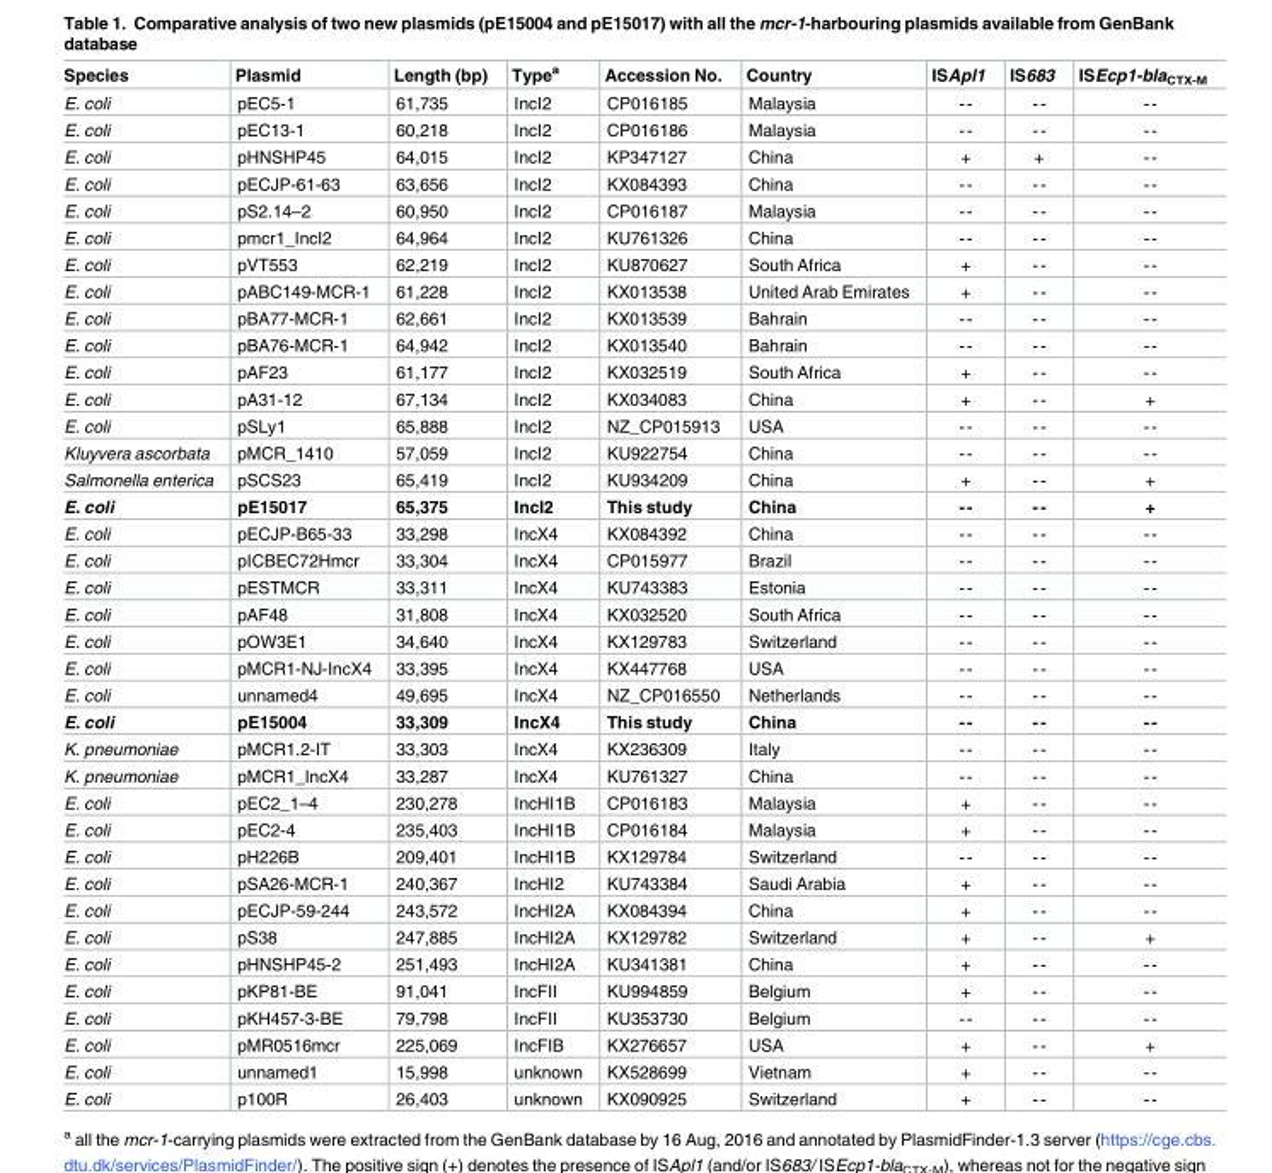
<table><thead><tr><td>Species</td><td>Plasmid</td><td>Length (bp)</td><td>Type<sup>a</sup></td><td>Accession No.</td><td>Country</td><td>ISApl1</td><td>IS683</td><td>ISEcp1-bla<sub>CTX-M</sub></td></tr></thead><tbody><tr><td>E. coli</td><td>pEC5-1</td><td>61,735</td><td>IncI2</td><td>CP016185</td><td>Malaysia</td><td>--</td><td>--</td><td>--</td></tr><tr><td>E. coli</td><td>pEC13-1</td><td>60,218</td><td>IncI2</td><td>CP016186</td><td>Malaysia</td><td>--</td><td>--</td><td>--</td></tr><tr><td>E. coli</td><td>pHNSHP45</td><td>64,015</td><td>IncI2</td><td>KP347127</td><td>China</td><td>+</td><td>+</td><td>--</td></tr><tr><td>E. coli</td><td>pECJP-61-63</td><td>63,656</td><td>IncI2</td><td>KX084393</td><td>China</td><td>--</td><td>--</td><td>--</td></tr><tr><td>E. coli</td><td>pS2.14–2</td><td>60,950</td><td>IncI2</td><td>CP016187</td><td>Malaysia</td><td>--</td><td>--</td><td>--</td></tr><tr><td>E. coli</td><td>pmcr1_IncI2</td><td>64,964</td><td>IncI2</td><td>KU761326</td><td>China</td><td>--</td><td>--</td><td>--</td></tr><tr><td>E. coli</td><td>pVT553</td><td>62,219</td><td>IncI2</td><td>KU870627</td><td>South Africa</td><td>+</td><td>--</td><td>--</td></tr><tr><td>E. coli</td><td>pABC149-MCR-1</td><td>61,228</td><td>IncI2</td><td>KX013538</td><td>United Arab Emirates</td><td>+</td><td>--</td><td>--</td></tr><tr><td>E. coli</td><td>pBA77-MCR-1</td><td>62,661</td><td>IncI2</td><td>KX013539</td><td>Bahrain</td><td>--</td><td>--</td><td>--</td></tr><tr><td>E. coli</td><td>pBA76-MCR-1</td><td>64,942</td><td>IncI2</td><td>KX013540</td><td>Bahrain</td><td>--</td><td>--</td><td>--</td></tr><tr><td>E. coli</td><td>pAF23</td><td>61,177</td><td>IncI2</td><td>KX032519</td><td>South Africa</td><td>+</td><td>--</td><td>--</td></tr><tr><td>E. coli</td><td>pA31-12</td><td>67,134</td><td>IncI2</td><td>KX034083</td><td>China</td><td>+</td><td>--</td><td>+</td></tr><tr><td>E. coli</td><td>pSLy1</td><td>65,888</td><td>IncI2</td><td>NZ_CP015913</td><td>USA</td><td>--</td><td>--</td><td>--</td></tr><tr><td>Kluyvera ascorbata</td><td>pMCR_1410</td><td>57,059</td><td>IncI2</td><td>KU922754</td><td>China</td><td>--</td><td>--</td><td>--</td></tr><tr><td>Salmonella enterica</td><td>pSCS23</td><td>65,419</td><td>IncI2</td><td>KU934209</td><td>China</td><td>+</td><td>--</td><td>+</td></tr><tr><td>E. coli</td><td>pE15017</td><td>65,375</td><td>IncI2</td><td>This study</td><td>China</td><td>--</td><td>--</td><td>+</td></tr><tr><td>E. coli</td><td>pECJP-B65-33</td><td>33,298</td><td>IncX4</td><td>KX084392</td><td>China</td><td>--</td><td>--</td><td>--</td></tr><tr><td>E. coli</td><td>pICBEC72Hmcr</td><td>33,304</td><td>IncX4</td><td>CP015977</td><td>Brazil</td><td>--</td><td>--</td><td>--</td></tr><tr><td>E. coli</td><td>pESTMCR</td><td>33,311</td><td>IncX4</td><td>KU743383</td><td>Estonia</td><td>--</td><td>--</td><td>--</td></tr><tr><td>E. coli</td><td>pAF48</td><td>31,808</td><td>IncX4</td><td>KX032520</td><td>South Africa</td><td>--</td><td>--</td><td>--</td></tr><tr><td>E. coli</td><td>pOW3E1</td><td>34,640</td><td>IncX4</td><td>KX129783</td><td>Switzerland</td><td>--</td><td>--</td><td>--</td></tr><tr><td>E. coli</td><td>pMCR1-NJ-IncX4</td><td>33,395</td><td>IncX4</td><td>KX447768</td><td>USA</td><td>--</td><td>--</td><td>--</td></tr><tr><td>E. coli</td><td>unnamed4</td><td>49,695</td><td>IncX4</td><td>NZ_CP016550</td><td>Netherlands</td><td>--</td><td>--</td><td>--</td></tr><tr><td>E. coli</td><td>pE15004</td><td>33,309</td><td>IncX4</td><td>This study</td><td>China</td><td>--</td><td>--</td><td>--</td></tr><tr><td>K. pneumoniae</td><td>pMCR1.2-IT</td><td>33,303</td><td>IncX4</td><td>KX236309</td><td>Italy</td><td>--</td><td>--</td><td>--</td></tr><tr><td>K. pneumoniae</td><td>pMCR1_IncX4</td><td>33,287</td><td>IncX4</td><td>KU761327</td><td>China</td><td>--</td><td>--</td><td>--</td></tr><tr><td>E. coli</td><td>pEC2_1–4</td><td>230,278</td><td>IncHI1B</td><td>CP016183</td><td>Malaysia</td><td>+</td><td>--</td><td>--</td></tr><tr><td>E. coli</td><td>pEC2-4</td><td>235,403</td><td>IncHI1B</td><td>CP016184</td><td>Malaysia</td><td>+</td><td>--</td><td>--</td></tr><tr><td>E. coli</td><td>pH226B</td><td>209,401</td><td>IncHI1B</td><td>KX129784</td><td>Switzerland</td><td>--</td><td>--</td><td>--</td></tr><tr><td>E. coli</td><td>pSA26-MCR-1</td><td>240,367</td><td>IncHI2</td><td>KU743384</td><td>Saudi Arabia</td><td>+</td><td>--</td><td>--</td></tr><tr><td>E. coli</td><td>pECJP-59-244</td><td>243,572</td><td>IncHI2A</td><td>KX084394</td><td>China</td><td>+</td><td>--</td><td>--</td></tr><tr><td>E. coli</td><td>pS38</td><td>247,885</td><td>IncHI2A</td><td>KX129782</td><td>Switzerland</td><td>+</td><td>--</td><td>+</td></tr><tr><td>E. coli</td><td>pHNSHP45-2</td><td>251,493</td><td>IncHI2A</td><td>KU341381</td><td>China</td><td>+</td><td>--</td><td>--</td></tr><tr><td>E. coli</td><td>pKP81-BE</td><td>91,041</td><td>IncFII</td><td>KU994859</td><td>Belgium</td><td>+</td><td>--</td><td>--</td></tr><tr><td>E. coli</td><td>pKH457-3-BE</td><td>79,798</td><td>IncFII</td><td>KU353730</td><td>Belgium</td><td>--</td><td>--</td><td>--</td></tr><tr><td>E. coli</td><td>pMR0516mcr</td><td>225,069</td><td>IncFIB</td><td>KX276657</td><td>USA</td><td>+</td><td>--</td><td>+</td></tr><tr><td>E. coli</td><td>unnamed1</td><td>15,998</td><td>unknown</td><td>KX528699</td><td>Vietnam</td><td>+</td><td>--</td><td>--</td></tr><tr><td>E. coli</td><td>p100R</td><td>26,403</td><td>unknown</td><td>KX090925</td><td>Switzerland</td><td>+</td><td>--</td><td>--</td></tr></tbody></table>